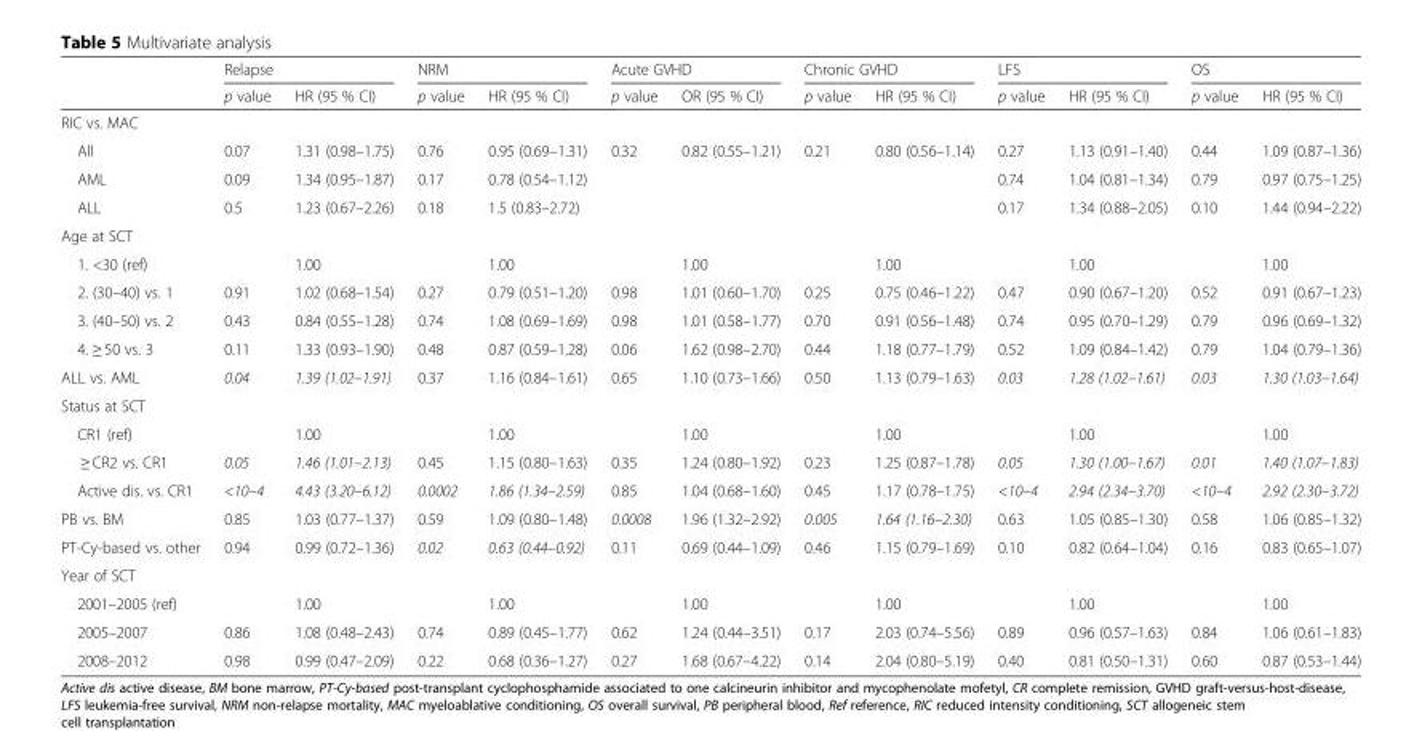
<table><thead><tr><td rowspan="2"></td><td colspan="2">Relapse</td><td colspan="2">NRM</td><td colspan="2">Acute GVHD</td><td colspan="2">Chronic GVHD</td><td colspan="2">LFS</td><td colspan="2">OS</td></tr><tr><td>p value</td><td>HR (95 % CI)</td><td>p value</td><td>HR (95 % CI)</td><td>p value</td><td>OR (95 % CI)</td><td>p value</td><td>HR (95 % CI)</td><td>p value</td><td>HR (95 % CI)</td><td>p value</td><td>HR (95 % CI)</td></tr></thead><tbody><tr><td colspan="13">RIC vs. MAC</td></tr><tr><td>All</td><td>0.07</td><td>1.31 (0.98–1.75)</td><td>0.76</td><td>0.95 (0.69–1.31)</td><td>0.32</td><td>0.82 (0.55–1.21)</td><td>0.21</td><td>0.80 (0.56–1.14)</td><td>0.27</td><td>1.13 (0.91–1.40)</td><td>0.44</td><td>1.09 (0.87–1.36)</td></tr><tr><td>AML</td><td>0.09</td><td>1.34 (0.95–1.87)</td><td>0.17</td><td>0.78 (0.54–1.12)</td><td></td><td></td><td></td><td></td><td>0.74</td><td>1.04 (0.81–1.34)</td><td>0.79</td><td>0.97 (0.75–1.25)</td></tr><tr><td>ALL</td><td>0.5</td><td>1.23 (0.67–2.26)</td><td>0.18</td><td>1.5 (0.83–2.72)</td><td></td><td></td><td></td><td></td><td>0.17</td><td>1.34 (0.88–2.05)</td><td>0.10</td><td>1.44 (0.94–2.22)</td></tr><tr><td colspan="13">Age at SCT</td></tr><tr><td>1. &lt;30 (ref)</td><td></td><td>1.00</td><td></td><td>1.00</td><td></td><td>1.00</td><td></td><td>1.00</td><td></td><td>1.00</td><td></td><td>1.00</td></tr><tr><td>2. (30–40) vs. 1</td><td>0.91</td><td>1.02 (0.68–1.54)</td><td>0.27</td><td>0.79 (0.51–1.20)</td><td>0.98</td><td>1.01 (0.60–1.70)</td><td>0.25</td><td>0.75 (0.46–1.22)</td><td>0.47</td><td>0.90 (0.67–1.20)</td><td>0.52</td><td>0.91 (0.67–1.23)</td></tr><tr><td>3. (40–50) vs. 2</td><td>0.43</td><td>0.84 (0.55–1.28)</td><td>0.74</td><td>1.08 (0.69–1.69)</td><td>0.98</td><td>1.01 (0.58–1.77)</td><td>0.70</td><td>0.91 (0.56–1.48)</td><td>0.74</td><td>0.95 (0.70–1.29)</td><td>0.79</td><td>0.96 (0.69–1.32)</td></tr><tr><td>4. ≥ 50 vs. 3</td><td>0.11</td><td>1.33 (0.93–1.90)</td><td>0.48</td><td>0.87 (0.59–1.28)</td><td>0.06</td><td>1.62 (0.98–2.70)</td><td>0.44</td><td>1.18 (0.77–1.79)</td><td>0.52</td><td>1.09 (0.84–1.42)</td><td>0.79</td><td>1.04 (0.79–1.36)</td></tr><tr><td>ALL vs. AML</td><td>0.04</td><td>1.39 (1.02–1.91)</td><td>0.37</td><td>1.16 (0.84–1.61)</td><td>0.65</td><td>1.10 (0.73–1.66)</td><td>0.50</td><td>1.13 (0.79–1.63)</td><td>0.03</td><td>1.28 (1.02–1.61)</td><td>0.03</td><td>1.30 (1.03–1.64)</td></tr><tr><td colspan="13">Status at SCT</td></tr><tr><td>CR1 (ref)</td><td></td><td>1.00</td><td></td><td>1.00</td><td></td><td>1.00</td><td></td><td>1.00</td><td></td><td>1.00</td><td></td><td>1.00</td></tr><tr><td>≥ CR2 vs. CR1</td><td>0.05</td><td>1.46 (1.01–2.13)</td><td>0.45</td><td>1.15 (0.80–1.63)</td><td>0.35</td><td>1.24 (0.80–1.92)</td><td>0.23</td><td>1.25 (0.87–1.78)</td><td>0.05</td><td>1.30 (1.00–1.67)</td><td>0.01</td><td>1.40 (1.07–1.83)</td></tr><tr><td>Active dis. vs. CR1</td><td>&lt;10–4</td><td>4.43 (3.20–6.12)</td><td>0.0002</td><td>1.86 (1.34–2.59)</td><td>0.85</td><td>1.04 (0.68–1.60)</td><td>0.45</td><td>1.17 (0.78–1.75)</td><td>&lt;10–4</td><td>2.94 (2.34–3.70)</td><td>&lt;10–4</td><td>2.92 (2.30–3.72)</td></tr><tr><td>PB vs. BM</td><td>0.85</td><td>1.03 (0.77–1.37)</td><td>0.59</td><td>1.09 (0.80–1.48)</td><td>0.0008</td><td>1.96 (1.32–2.92)</td><td>0.005</td><td>1.64 (1.16–2.30)</td><td>0.63</td><td>1.05 (0.85–1.30)</td><td>0.58</td><td>1.06 (0.85–1.32)</td></tr><tr><td>PT-Cy-based vs. other</td><td>0.94</td><td>0.99 (0.72–1.36)</td><td>0.02</td><td>0.63 (0.44–0.92)</td><td>0.11</td><td>0.69 (0.44–1.09)</td><td>0.46</td><td>1.15 (0.79–1.69)</td><td>0.10</td><td>0.82 (0.64–1.04)</td><td>0.16</td><td>0.83 (0.65–1.07)</td></tr><tr><td colspan="13">Year of SCT</td></tr><tr><td>2001–2005 (ref)</td><td></td><td>1.00</td><td></td><td>1.00</td><td></td><td>1.00</td><td></td><td>1.00</td><td></td><td>1.00</td><td></td><td>1.00</td></tr><tr><td>2005–2007</td><td>0.86</td><td>1.08 (0.48–2.43)</td><td>0.74</td><td>0.89 (0.45–1.77)</td><td>0.62</td><td>1.24 (0.44–3.51)</td><td>0.17</td><td>2.03 (0.74–5.56)</td><td>0.89</td><td>0.96 (0.57–1.63)</td><td>0.84</td><td>1.06 (0.61–1.83)</td></tr><tr><td>2008–2012</td><td>0.98</td><td>0.99 (0.47–2.09)</td><td>0.22</td><td>0.68 (0.36–1.27)</td><td>0.27</td><td>1.68 (0.67–4.22)</td><td>0.14</td><td>2.04 (0.80–5.19)</td><td>0.40</td><td>0.81 (0.50–1.31)</td><td>0.60</td><td>0.87 (0.53–1.44)</td></tr></tbody></table>